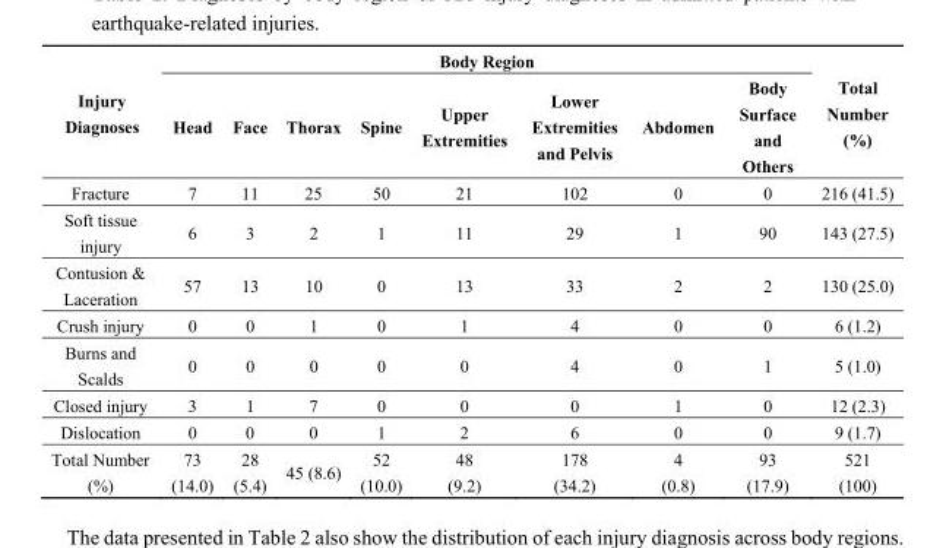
<table><thead><tr><td rowspan="2">Injury Diagnoses</td><td colspan="8">Body Region</td><td rowspan="2">Total Number (%)</td></tr><tr><td>Head</td><td>Face</td><td>Thorax</td><td>Spine</td><td>Upper Extremities</td><td>Lower Extremities and Pelvis</td><td>Abdomen</td><td>Body Surface and Others</td></tr></thead><tbody><tr><td>Fracture</td><td>7</td><td>11</td><td>25</td><td>50</td><td>21</td><td>102</td><td>0</td><td>0</td><td>216 (41.5)</td></tr><tr><td>Soft tissue injury</td><td>6</td><td>3</td><td>2</td><td>1</td><td>11</td><td>29</td><td>1</td><td>90</td><td>143 (27.5)</td></tr><tr><td>Contusion &amp; Laceration</td><td>57</td><td>13</td><td>10</td><td>0</td><td>13</td><td>33</td><td>2</td><td>2</td><td>130 (25.0)</td></tr><tr><td>Crush injury</td><td>0</td><td>0</td><td>1</td><td>0</td><td>1</td><td>4</td><td>0</td><td>0</td><td>6 (1.2)</td></tr><tr><td>Burns and Scalds</td><td>0</td><td>0</td><td>0</td><td>0</td><td>0</td><td>4</td><td>0</td><td>1</td><td>5 (1.0)</td></tr><tr><td>Closed injury</td><td>3</td><td>1</td><td>7</td><td>0</td><td>0</td><td>0</td><td>1</td><td>0</td><td>12 (2.3)</td></tr><tr><td>Dislocation</td><td>0</td><td>0</td><td>0</td><td>1</td><td>2</td><td>6</td><td>0</td><td>0</td><td>9 (1.7)</td></tr><tr><td>Total Number (%)</td><td>73 (14.0)</td><td>28 (5.4)</td><td>45 (8.6)</td><td>52 (10.0)</td><td>48 (9.2)</td><td>178 (34.2)</td><td>4 (0.8)</td><td>93 (17.9)</td><td>521 (100)</td></tr></tbody></table>